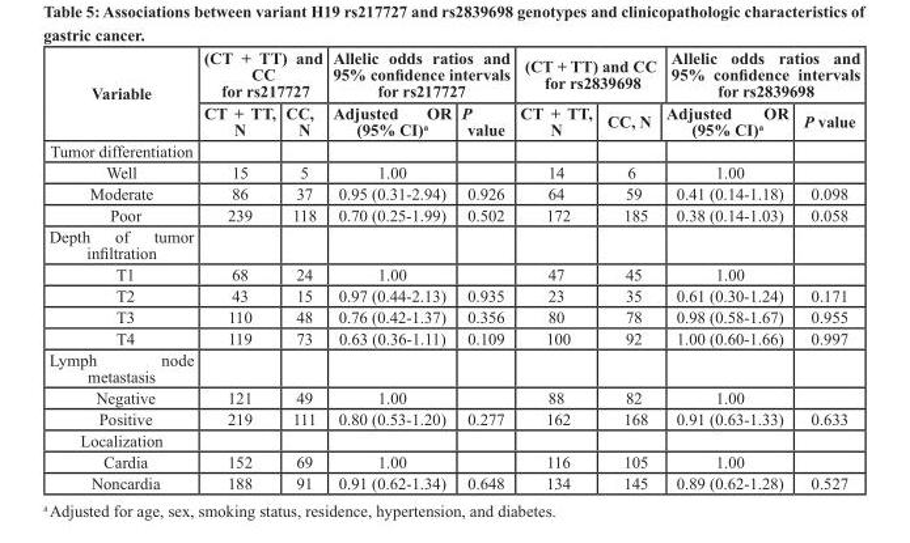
<table><thead><tr><td rowspan="2">Variable</td><td colspan="2">(CT + TT) and CC for rs217727</td><td colspan="2">Allelic odds ratios and 95% confidence intervals for rs217727</td><td colspan="2">(CT + TT) and CC for rs2839698</td><td colspan="2">Allelic odds ratios and 95% confidence intervals for rs2839698</td></tr><tr><td>CT + TT, N</td><td>CC, N</td><td>Adjusted OR (95% CI)<sup>a</sup></td><td>P value</td><td>CT + TT, N</td><td>CC, N</td><td>Adjusted OR (95% CI)<sup>a</sup></td><td>P value</td></tr></thead><tbody><tr><td colspan="9">Tumor differentiation</td></tr><tr><td>Well</td><td>15</td><td>5</td><td>1.00</td><td></td><td>14</td><td>6</td><td>1.00</td><td></td></tr><tr><td>Moderate</td><td>86</td><td>37</td><td>0.95 (0.31-2.94)</td><td>0.926</td><td>64</td><td>59</td><td>0.41 (0.14-1.18)</td><td>0.098</td></tr><tr><td>Poor</td><td>239</td><td>118</td><td>0.70 (0.25-1.99)</td><td>0.502</td><td>172</td><td>185</td><td>0.38 (0.14-1.03)</td><td>0.058</td></tr><tr><td colspan="9">Depth of tumor infiltration</td></tr><tr><td>T1</td><td>68</td><td>24</td><td>1.00</td><td></td><td>47</td><td>45</td><td>1.00</td><td></td></tr><tr><td>T2</td><td>43</td><td>15</td><td>0.97 (0.44-2.13)</td><td>0.935</td><td>23</td><td>35</td><td>0.61 (0.30-1.24)</td><td>0.171</td></tr><tr><td>T3</td><td>110</td><td>48</td><td>0.76 (0.42-1.37)</td><td>0.356</td><td>80</td><td>78</td><td>0.98 (0.58-1.67)</td><td>0.955</td></tr><tr><td>T4</td><td>119</td><td>73</td><td>0.63 (0.36-1.11)</td><td>0.109</td><td>100</td><td>92</td><td>1.00 (0.60-1.66)</td><td>0.997</td></tr><tr><td colspan="9">Lymph node metastasis</td></tr><tr><td>Negative</td><td>121</td><td>49</td><td>1.00</td><td></td><td>88</td><td>82</td><td>1.00</td><td></td></tr><tr><td>Positive</td><td>219</td><td>111</td><td>0.80 (0.53-1.20)</td><td>0.277</td><td>162</td><td>168</td><td>0.91 (0.63-1.33)</td><td>0.633</td></tr><tr><td colspan="9">Localization</td></tr><tr><td>Cardia</td><td>152</td><td>69</td><td>1.00</td><td></td><td>116</td><td>105</td><td>1.00</td><td></td></tr><tr><td>Noncardia</td><td>188</td><td>91</td><td>0.91 (0.62-1.34)</td><td>0.648</td><td>134</td><td>145</td><td>0.89 (0.62-1.28)</td><td>0.527</td></tr></tbody></table>